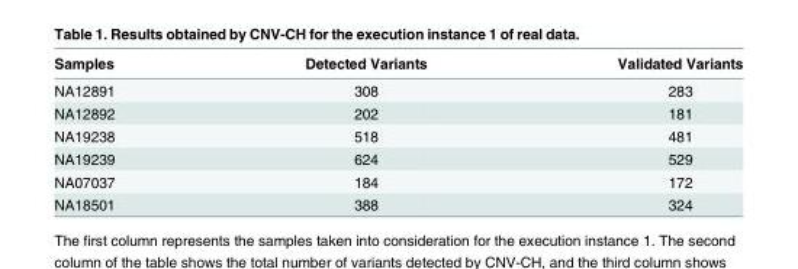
<table><thead><tr><td>Samples</td><td>Detected Variants</td><td>Validated Variants</td></tr></thead><tbody><tr><td>NA12891</td><td>308</td><td>283</td></tr><tr><td>NA12892</td><td>202</td><td>181</td></tr><tr><td>NA19238</td><td>518</td><td>481</td></tr><tr><td>NA19239</td><td>624</td><td>529</td></tr><tr><td>NA07037</td><td>184</td><td>172</td></tr><tr><td>NA18501</td><td>388</td><td>324</td></tr></tbody></table>